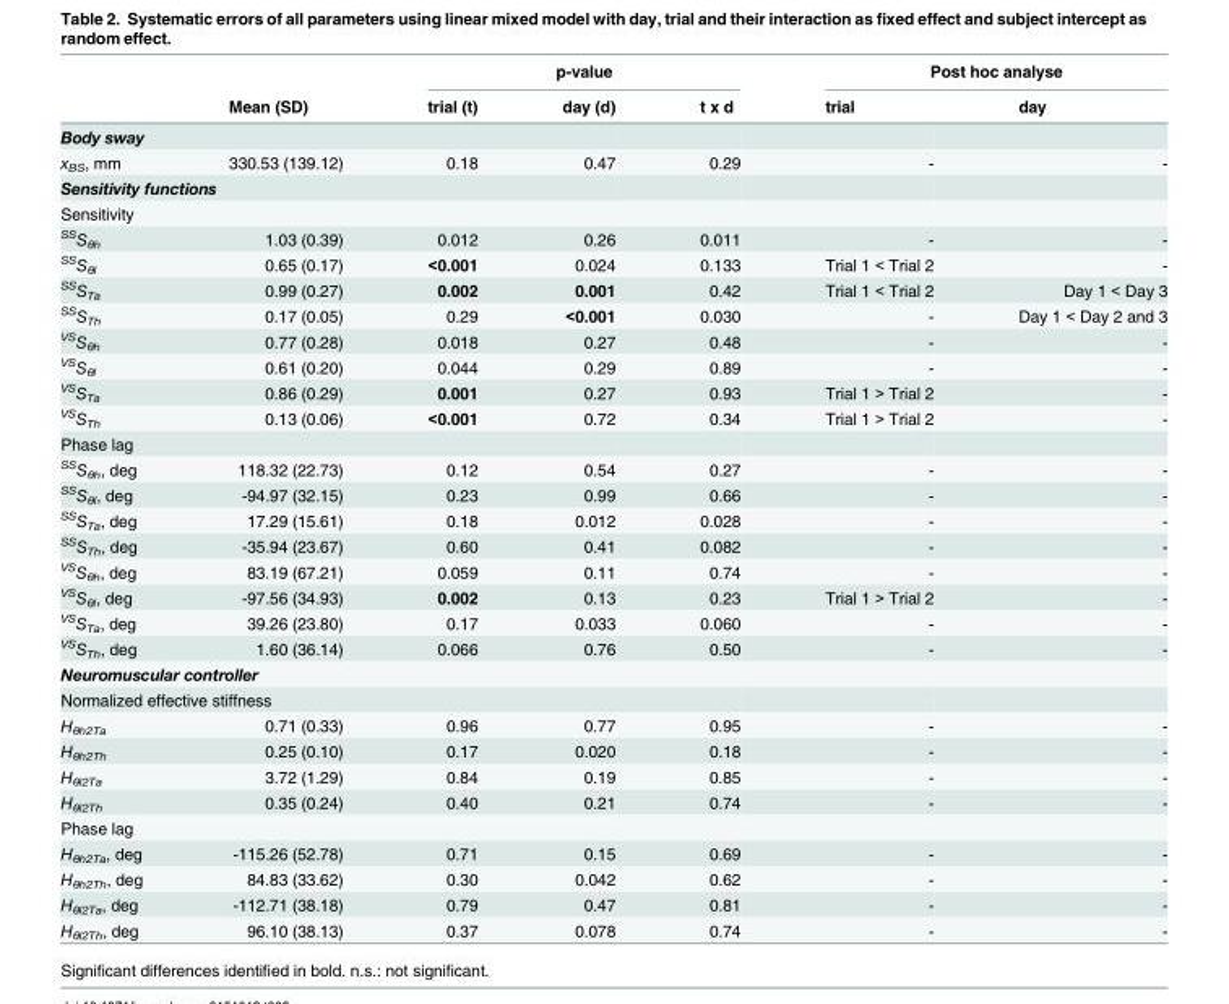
<table><thead><tr><td rowspan="2"></td><td rowspan="2">Mean (SD)</td><td colspan="3">p-value</td><td colspan="2">Post hoc analyse</td></tr><tr><td>trial (t)</td><td>day (d)</td><td>t x d</td><td>trial</td><td>day</td></tr></thead><tbody><tr><td colspan="7">Body sway</td></tr><tr><td>x<sub>BS</sub>, mm</td><td>330.53 (139.12)</td><td>0.18</td><td>0.47</td><td>0.29</td><td>-</td><td>-</td></tr><tr><td colspan="7">Sensitivity functions</td></tr><tr><td colspan="7">Sensitivity</td></tr><tr><td><sup>SS</sup>S<sub>θh</sub></td><td>1.03 (0.39)</td><td>0.012</td><td>0.26</td><td>0.011</td><td>-</td><td>-</td></tr><tr><td><sup>SS</sup>S<sub>θl</sub></td><td>0.65 (0.17)</td><td>&lt;0.001</td><td>0.024</td><td>0.133</td><td>Trial 1 &lt; Trial 2</td><td>-</td></tr><tr><td><sup>SS</sup>S<sub>Ta</sub></td><td>0.99 (0.27)</td><td>0.002</td><td>0.001</td><td>0.42</td><td>Trial 1 &lt; Trial 2</td><td>Day 1 &lt; Day 3</td></tr><tr><td><sup>SS</sup>S<sub>Th</sub></td><td>0.17 (0.05)</td><td>0.29</td><td>&lt;0.001</td><td>0.030</td><td>-</td><td>Day 1 &lt; Day 2 and 3</td></tr><tr><td><sup>VS</sup>S<sub>θh</sub></td><td>0.77 (0.28)</td><td>0.018</td><td>0.27</td><td>0.48</td><td>-</td><td>-</td></tr><tr><td><sup>VS</sup>S<sub>θl</sub></td><td>0.61 (0.20)</td><td>0.044</td><td>0.29</td><td>0.89</td><td>-</td><td>-</td></tr><tr><td><sup>VS</sup>S<sub>Ta</sub></td><td>0.86 (0.29)</td><td>0.001</td><td>0.27</td><td>0.93</td><td>Trial 1 &gt; Trial 2</td><td>-</td></tr><tr><td><sup>VS</sup>S<sub>Th</sub></td><td>0.13 (0.06)</td><td>&lt;0.001</td><td>0.72</td><td>0.34</td><td>Trial 1 &gt; Trial 2</td><td>-</td></tr><tr><td colspan="7">Phase lag</td></tr><tr><td><sup>SS</sup>S<sub>θh</sub>, deg</td><td>118.32 (22.73)</td><td>0.12</td><td>0.54</td><td>0.27</td><td>-</td><td>-</td></tr><tr><td><sup>SS</sup>S<sub>θl</sub>, deg</td><td>-94.97 (32.15)</td><td>0.23</td><td>0.99</td><td>0.66</td><td>-</td><td>-</td></tr><tr><td><sup>SS</sup>S<sub>Ta</sub>, deg</td><td>17.29 (15.61)</td><td>0.18</td><td>0.012</td><td>0.028</td><td>-</td><td>-</td></tr><tr><td><sup>SS</sup>S<sub>Th</sub>, deg</td><td>-35.94 (23.67)</td><td>0.60</td><td>0.41</td><td>0.082</td><td>-</td><td>-</td></tr><tr><td><sup>VS</sup>S<sub>θh</sub>, deg</td><td>83.19 (67.21)</td><td>0.059</td><td>0.11</td><td>0.74</td><td>-</td><td>-</td></tr><tr><td><sup>VS</sup>S<sub>θl</sub>, deg</td><td>-97.56 (34.93)</td><td>0.002</td><td>0.13</td><td>0.23</td><td>Trial 1 &gt; Trial 2</td><td>-</td></tr><tr><td><sup>VS</sup>S<sub>Ta</sub>, deg</td><td>39.26 (23.80)</td><td>0.17</td><td>0.033</td><td>0.060</td><td>-</td><td>-</td></tr><tr><td><sup>VS</sup>S<sub>Th</sub>, deg</td><td>1.60 (36.14)</td><td>0.066</td><td>0.76</td><td>0.50</td><td>-</td><td>-</td></tr><tr><td colspan="7">Neuromuscular controller</td></tr><tr><td colspan="7">Normalized effective stiffness</td></tr><tr><td>H<sub>θh2Ta</sub></td><td>0.71 (0.33)</td><td>0.96</td><td>0.77</td><td>0.95</td><td>-</td><td>-</td></tr><tr><td>H<sub>θh2Th</sub></td><td>0.25 (0.10)</td><td>0.17</td><td>0.020</td><td>0.18</td><td>-</td><td>-</td></tr><tr><td>H<sub>θl2Ta</sub></td><td>3.72 (1.29)</td><td>0.84</td><td>0.19</td><td>0.85</td><td>-</td><td>-</td></tr><tr><td>H<sub>θl2Th</sub></td><td>0.35 (0.24)</td><td>0.40</td><td>0.21</td><td>0.74</td><td>-</td><td>-</td></tr><tr><td colspan="7">Phase lag</td></tr><tr><td>H<sub>θh2Ta</sub>, deg</td><td>-115.26 (52.78)</td><td>0.71</td><td>0.15</td><td>0.69</td><td>-</td><td>-</td></tr><tr><td>H<sub>θh2Th</sub>, deg</td><td>84.83 (33.62)</td><td>0.30</td><td>0.042</td><td>0.62</td><td>-</td><td>-</td></tr><tr><td>H<sub>θl2Ta</sub>, deg</td><td>-112.71 (38.18)</td><td>0.79</td><td>0.47</td><td>0.81</td><td>-</td><td>-</td></tr><tr><td>H<sub>θl2Th</sub>, deg</td><td>96.10 (38.13)</td><td>0.37</td><td>0.078</td><td>0.74</td><td>-</td><td>-</td></tr></tbody></table>